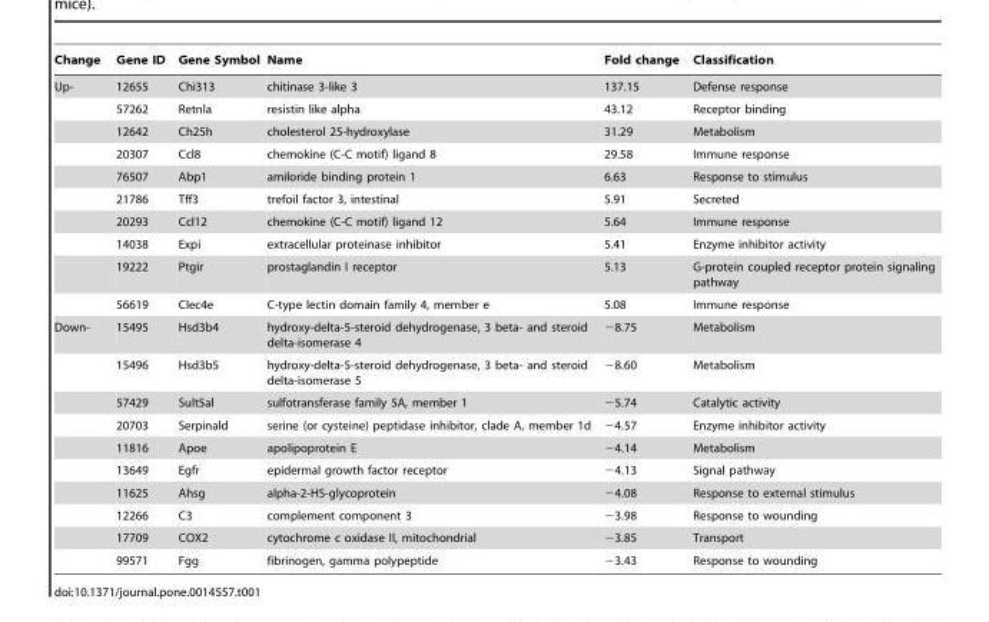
<table><thead><tr><td>Change</td><td>Gene ID</td><td>Gene Symbol</td><td>Name</td><td>Fold change</td><td>Classification</td></tr></thead><tbody><tr><td rowspan="10">Up-</td><td>12655</td><td>Chi313</td><td>chitinase 3-like 3</td><td>137.15</td><td>Defense response</td></tr><tr><td>57262</td><td>Retnla</td><td>resistin like alpha</td><td>43.12</td><td>Receptor binding</td></tr><tr><td>12642</td><td>Ch25h</td><td>cholesterol 25-hydroxylase</td><td>31.29</td><td>Metabolism</td></tr><tr><td>20307</td><td>Ccl8</td><td>chemokine (C-C motif) ligand 8</td><td>29.58</td><td>Immune response</td></tr><tr><td>76507</td><td>Abp1</td><td>amiloride binding protein 1</td><td>6.63</td><td>Response to stimulus</td></tr><tr><td>21786</td><td>Tff3</td><td>trefoil factor 3, intestinal</td><td>5.91</td><td>Secreted</td></tr><tr><td>20293</td><td>Ccl12</td><td>chemokine (C-C motif) ligand 12</td><td>5.64</td><td>Immune response</td></tr><tr><td>14038</td><td>Expi</td><td>extracellular proteinase inhibitor</td><td>5.41</td><td>Enzyme inhibitor activity</td></tr><tr><td>19222</td><td>Ptgir</td><td>prostaglandin I receptor</td><td>5.13</td><td>G-protein coupled receptor protein signaling pathway</td></tr><tr><td>56619</td><td>Clec4e</td><td>C-type lectin domain family 4, member e</td><td>5.08</td><td>Immune response</td></tr><tr><td rowspan="10">Down-</td><td>15495</td><td>Hsd3b4</td><td>hydroxy-delta-5-steroid dehydrogenase, 3 beta- and steroid delta-isomerase 4</td><td>−8.75</td><td>Metabolism</td></tr><tr><td>15496</td><td>Hsd3b5</td><td>hydroxy-delta-5-steroid dehydrogenase, 3 beta- and steroid delta-isomerase 5</td><td>−8.60</td><td>Metabolism</td></tr><tr><td>57429</td><td>Sult5al</td><td>sulfotransferase family 5A, member 1</td><td>−5.74</td><td>Catalytic activity</td></tr><tr><td>20703</td><td>Serpinald</td><td>serine (or cysteine) peptidase inhibitor, clade A, member 1d</td><td>−4.57</td><td>Enzyme inhibitor activity</td></tr><tr><td>11816</td><td>Apoe</td><td>apolipoprotein E</td><td>−4.14</td><td>Metabolism</td></tr><tr><td>13649</td><td>Egfr</td><td>epidermal growth factor receptor</td><td>−4.13</td><td>Signal pathway</td></tr><tr><td>11625</td><td>Ahsg</td><td>alpha-2-HS-glycoprotein</td><td>−4.08</td><td>Response to external stimulus</td></tr><tr><td>12266</td><td>C3</td><td>complement component 3</td><td>−3.98</td><td>Response to wounding</td></tr><tr><td>17709</td><td>COX2</td><td>cytochrome c oxidase II, mitochondrial</td><td>−3.85</td><td>Transport</td></tr><tr><td>99571</td><td>Fgg</td><td>fibrinogen, gamma polypeptide</td><td>−3.43</td><td>Response to wounding</td></tr></tbody></table>